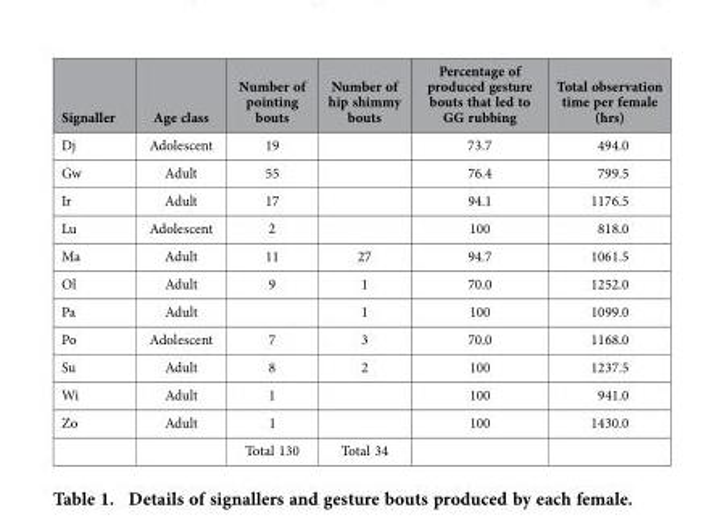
<table><thead><tr><td>Signaller</td><td>Age class</td><td>Number of pointing bouts</td><td>Number of hip shimmy bouts</td><td>Percentage of produced gesture bouts that led to GG rubbing</td><td>Total observation time per female (hrs)</td></tr></thead><tbody><tr><td>Dj</td><td>Adolescent</td><td>19</td><td></td><td>73.7</td><td>494.0</td></tr><tr><td>Gw</td><td>Adult</td><td>55</td><td></td><td>76.4</td><td>799.5</td></tr><tr><td>Ir</td><td>Adult</td><td>17</td><td></td><td>94.1</td><td>1176.5</td></tr><tr><td>Lu</td><td>Adolescent</td><td>2</td><td></td><td>100</td><td>818.0</td></tr><tr><td>Ma</td><td>Adult</td><td>11</td><td>27</td><td>94.7</td><td>1061.5</td></tr><tr><td>Ol</td><td>Adult</td><td>9</td><td>1</td><td>70.0</td><td>1252.0</td></tr><tr><td>Pa</td><td>Adult</td><td></td><td>1</td><td>100</td><td>1099.0</td></tr><tr><td>Po</td><td>Adolescent</td><td>7</td><td>3</td><td>70.0</td><td>1168.0</td></tr><tr><td>Su</td><td>Adult</td><td>8</td><td>2</td><td>100</td><td>1237.5</td></tr><tr><td>Wi</td><td>Adult</td><td>1</td><td></td><td>100</td><td>941.0</td></tr><tr><td rowspan="2">Zo</td><td>Adult</td><td>1</td><td></td><td>100</td><td>1430.0</td></tr><tr><td></td><td>Total 130</td><td>Total 34</td><td></td><td></td></tr></tbody></table>